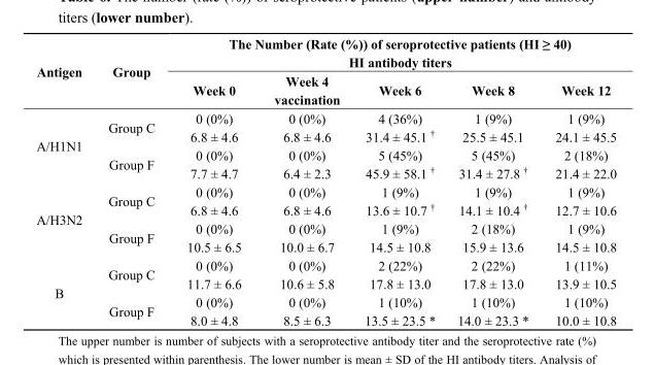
<table><thead><tr><td rowspan="2">Antigen</td><td rowspan="2">Group</td><td colspan="5">The Number (Rate (%)) of seroprotective patients (HI ≥ 40) HI antibody titers</td></tr><tr><td>Week 0</td><td>Week 4 vaccination</td><td>Week 6</td><td>Week 8</td><td>Week 12</td></tr></thead><tbody><tr><td rowspan="2">A/H1N1</td><td>Group C</td><td>0 (0%) 6.8 ± 4.6</td><td>0 (0%) 6.8 ± 4.6</td><td>4 (36%) 31.4 ± 45.1 <sup>†</sup></td><td>1 (9%) 25.5 ± 45.1</td><td>1 (9%) 24.1 ± 45.5</td></tr><tr><td>Group F</td><td>0 (0%) 7.7 ± 4.7</td><td>0 (0%) 6.4 ± 2.3</td><td>5 (45%) 45.9 ± 58.1 <sup>†</sup></td><td>5 (45%) 31.4 ± 27.8 <sup>†</sup></td><td>2 (18%) 21.4 ± 22.0</td></tr><tr><td rowspan="2">A/H3N2</td><td>Group C</td><td>0 (0%) 6.8 ± 4.6</td><td>0 (0%) 6.8 ± 4.6</td><td>1 (9%) 13.6 ± 10.7 <sup>†</sup></td><td>1 (9%) 14.1 ± 10.4 <sup>†</sup></td><td>1 (9%) 12.7 ± 10.6</td></tr><tr><td>Group F</td><td>0 (0%) 10.5 ± 6.5</td><td>0 (0%) 10.0 ± 6.7</td><td>1 (9%) 14.5 ± 10.8</td><td>2 (18%) 15.9 ± 13.6</td><td>1 (9%) 14.5 ± 10.8</td></tr><tr><td rowspan="2">B</td><td>Group C</td><td>0 (0%) 11.7 ± 6.6</td><td>0 (0%) 10.6 ± 5.8</td><td>2 (22%) 17.8 ± 13.0</td><td>2 (22%) 17.8 ± 13.0</td><td>1 (11%) 13.9 ± 10.5</td></tr><tr><td>Group F</td><td>0 (0%) 8.0 ± 4.8</td><td>0 (0%) 8.5 ± 6.3</td><td>1 (10%) 13.5 ± 23.5 *</td><td>1 (10%) 14.0 ± 23.3 *</td><td>1 (10%) 10.0 ± 10.8</td></tr></tbody></table>